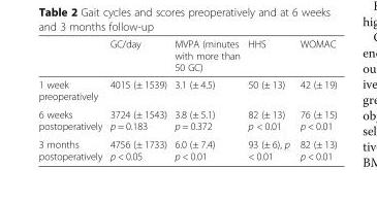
<table><thead><tr><td></td><td>GC/day</td><td>MVPA (minutes with more than 50 GC)</td><td>HHS</td><td>WOMAC</td></tr></thead><tbody><tr><td>1 week preoperatively</td><td>4015 (± 1539)</td><td>3.1 (± 4.5)</td><td>50 (± 13)</td><td>42 (± 19)</td></tr><tr><td>6 weeks postoperatively</td><td>3724 (± 1543) p = 0.183</td><td>3.8 (± 5.1) p = 0.372</td><td>82 (± 13) p &lt; 0.01</td><td>76 (± 15) p &lt; 0.01</td></tr><tr><td>3 months postoperatively</td><td>4756 (± 1733) p &lt; 0.05</td><td>6.0 (± 7.4) p &lt; 0.01</td><td>93 (± 6), p &lt; 0.01</td><td>82 (± 13) p &lt; 0.01</td></tr></tbody></table>